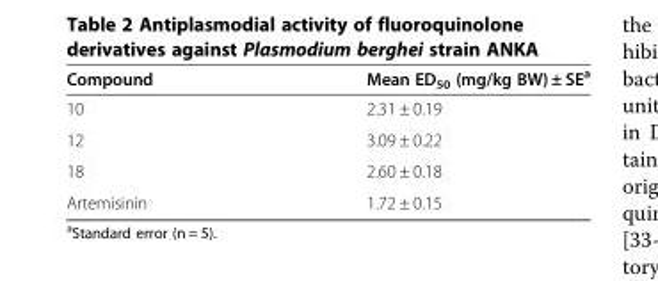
<table><thead><tr><td>Compound</td><td>Mean ED<sub>50</sub> (mg/kg BW) ± SE<sup>a</sup></td></tr></thead><tbody><tr><td>10</td><td>2.31 ± 0.19</td></tr><tr><td>12</td><td>3.09 ± 0.22</td></tr><tr><td>18</td><td>2.60 ± 0.18</td></tr><tr><td>Artemisinin</td><td>1.72 ± 0.15</td></tr></tbody></table>